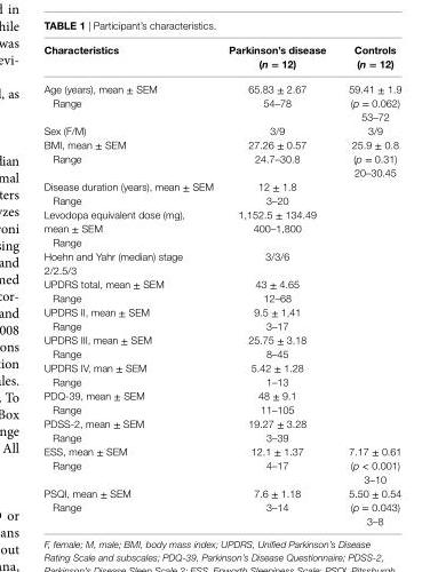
<table><thead><tr><td>characteristics</td><td>Parkinson’s disease (n = 12)</td><td>controls (n = 12)</td></tr></thead><tbody><tr><td>Age (years), mean ± SEM Range</td><td>65.83 ± 2.67 54–78</td><td>59.41 ± 1.9 (p = 0.062) 53–72</td></tr><tr><td>Sex (F/M)</td><td>3/9</td><td>3/9</td></tr><tr><td>BMI, mean ± SEM Range</td><td>27.26 ± 0.57 24.7–30.8</td><td>25.9 ± 0.8 (p = 0.31) 20–30.45</td></tr><tr><td>Disease duration (years), mean ± SEM Range</td><td>12 ± 1.8 3–20</td><td></td></tr><tr><td>Levodopa equivalent dose (mg), mean ± SEM Range</td><td>1,152.5 ± 134.49 400–1,800</td><td></td></tr><tr><td>Hoehn and Yahr (median) stage 2/2.5/3</td><td>3/3/6</td><td></td></tr><tr><td>UPDRS total, mean ± SEM Range</td><td>43 ± 4.65 12–68</td><td></td></tr><tr><td>UPDRS II, mean ± SEM Range</td><td>9.5 ± 1,41 3–17</td><td></td></tr><tr><td>UPDRS III, mean ± SEM Range</td><td>25.75 ± 3.18 8–45</td><td></td></tr><tr><td>UPDRS IV, man ± SEM Range</td><td>5.42 ± 1.28 1–13</td><td></td></tr><tr><td>PDQ-39, mean ± SEM Range</td><td>48 ± 9.1 11–105</td><td></td></tr><tr><td>PDSS-2, mean ± SEM Range</td><td>19.27 ± 3.28 3–39</td><td></td></tr><tr><td>ESS, mean ± SEM Range</td><td>12.1 ± 1.37 4–17</td><td>7.17 ± 0.61 (p &lt; 0.001) 3–10</td></tr><tr><td>PSQI, mean ± SEM Range</td><td>7.6 ± 1.18 3–14</td><td>5.50 ± 0.54 (p = 0.043) 3–8</td></tr></tbody></table>